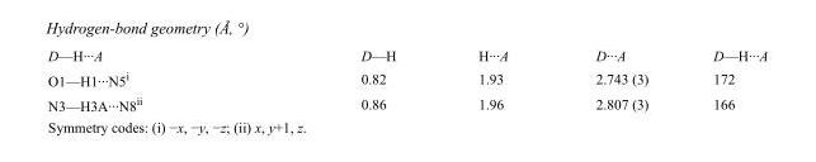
<table><tbody><tr><td>D—H···A</td><td>D—H</td><td>H···A</td><td>D···A</td><td>D—H···A</td></tr><tr><td>O1—H1···N5<sup>i</sup></td><td>0.82</td><td>1.93</td><td>2.743 (3)</td><td>172</td></tr><tr><td>N3—H3A···N8<sup>ii</sup></td><td>0.86</td><td>1.96</td><td>2.807 (3)</td><td>166</td></tr></tbody></table>